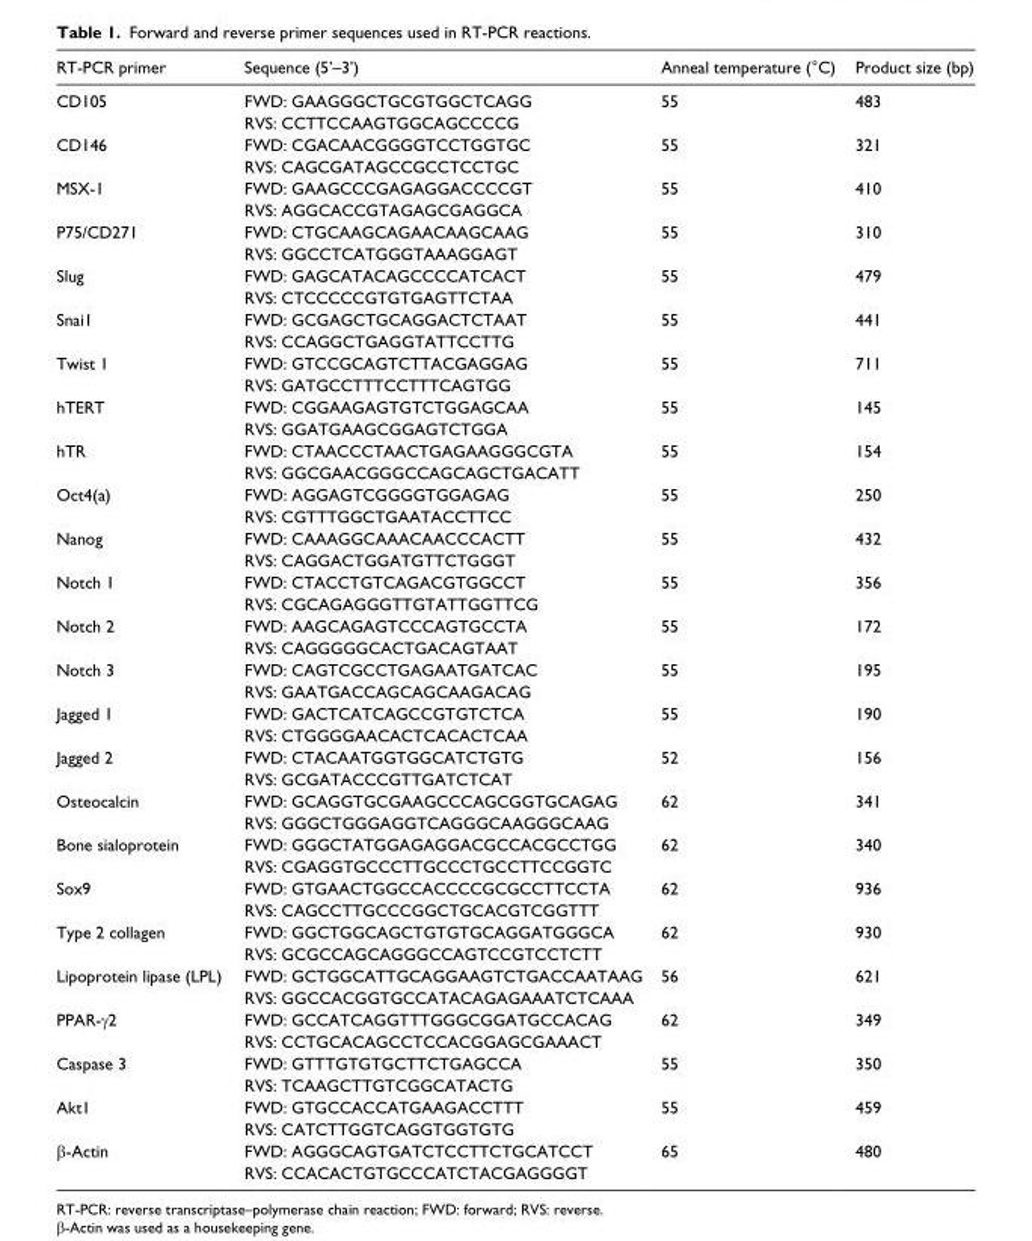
<table><thead><tr><td>RT-PCR primer</td><td>Sequence (5’–3’)</td><td>Anneal temperature (°C)</td><td>Product size (bp)</td></tr></thead><tbody><tr><td rowspan="2">CD105</td><td>FWD: GAAGGGCTGCGTGGCTCAGG</td><td>55</td><td>483</td></tr><tr><td>RVS: CCTTCCAAGTGGCAGCCCCG</td><td></td><td></td></tr><tr><td rowspan="2">CD146</td><td>FWD: CGACAACGGGGTCCTGGTGC</td><td>55</td><td>321</td></tr><tr><td>RVS: CAGCGATAGCCGCCTCCTGC</td><td></td><td></td></tr><tr><td rowspan="2">MSX-1</td><td>FWD: GAAGCCCGAGAGGACCCCGT</td><td>55</td><td>410</td></tr><tr><td>RVS: AGGCACCGTAGAGCGAGGCA</td><td></td><td></td></tr><tr><td rowspan="2">P75/CD271</td><td>FWD: CTGCAAGCAGAACAAGCAAG</td><td>55</td><td>310</td></tr><tr><td>RVS: GGCCTCATGGGTAAAGGAGT</td><td></td><td></td></tr><tr><td rowspan="2">Slug</td><td>FWD: GAGCATACAGCCCCATCACT</td><td>55</td><td>479</td></tr><tr><td>RVS: CTCCCCCGTGTGAGTTCTAA</td><td></td><td></td></tr><tr><td rowspan="2">Snai1</td><td>FWD: GCGAGCTGCAGGACTCTAAT</td><td>55</td><td>441</td></tr><tr><td>RVS: CCAGGCTGAGGTATTCCTTG</td><td></td><td></td></tr><tr><td rowspan="2">Twist 1</td><td>FWD: GTCCGCAGTCTTACGAGGAG</td><td>55</td><td>711</td></tr><tr><td>RVS: GATGCCTTTCCTTTCAGTGG</td><td></td><td></td></tr><tr><td rowspan="2">hTERT</td><td>FWD: CGGAAGAGTGTCTGGAGCAA</td><td>55</td><td>145</td></tr><tr><td>RVS: GGATGAAGCGGAGTCTGGA</td><td></td><td></td></tr><tr><td rowspan="2">hTR</td><td>FWD: CTAACCCTAACTGAGAAGGGCGTA</td><td>55</td><td>154</td></tr><tr><td>RVS: GGCGAACGGGCCAGCAGCTGACATT</td><td></td><td></td></tr><tr><td rowspan="2">Oct4(a)</td><td>FWD: AGGAGTCGGGGTGGAGAG</td><td>55</td><td>250</td></tr><tr><td>RVS: CGTTTGGCTGAATACCTTCC</td><td></td><td></td></tr><tr><td rowspan="2">Nanog</td><td>FWD: CAAAGGCAAACAACCCACTT</td><td>55</td><td>432</td></tr><tr><td>RVS: CAGGACTGGATGTTCTGGGT</td><td></td><td></td></tr><tr><td rowspan="2">Notch 1</td><td>FWD: CTACCTGTCAGACGTGGCCT</td><td>55</td><td>356</td></tr><tr><td>RVS: CGCAGAGGGTTGTATTGGTTCG</td><td></td><td></td></tr><tr><td rowspan="2">Notch 2</td><td>FWD: AAGCAGAGTCCCAGTGCCTA</td><td>55</td><td>172</td></tr><tr><td>RVS: CAGGGGGCACTGACAGTAAT</td><td></td><td></td></tr><tr><td rowspan="2">Notch 3</td><td>FWD: CAGTCGCCTGAGAATGATCAC</td><td>55</td><td>195</td></tr><tr><td>RVS: GAATGACCAGCAGCAAGACAG</td><td></td><td></td></tr><tr><td rowspan="2">Jagged 1</td><td>FWD: GACTCATCAGCCGTGTCTCA</td><td>55</td><td>190</td></tr><tr><td>RVS: CTGGGGAACACTCACACTCAA</td><td></td><td></td></tr><tr><td rowspan="2">Jagged 2</td><td>FWD: CTACAATGGTGGCATCTGTG</td><td>52</td><td>156</td></tr><tr><td>RVS: GCGATACCCGTTGATCTCAT</td><td></td><td></td></tr><tr><td rowspan="2">Osteocalcin</td><td>FWD: GCAGGTGCGAAGCCCAGCGGTGCAGAG</td><td>62</td><td>341</td></tr><tr><td>RVS: GGGCTGGGAGGTCAGGGCAAGGGCAAG</td><td></td><td></td></tr><tr><td rowspan="2">Bone sialoprotein</td><td>FWD: GGGCTATGGAGAGGACGCCACGCCTGG</td><td>62</td><td>340</td></tr><tr><td>RVS: CGAGGTGCCCTTGCCCTGCCTTCCGGTC</td><td></td><td></td></tr><tr><td rowspan="2">Sox9</td><td>FWD: GTGAACTGGCCACCCCGCGCCTTCCTA</td><td>62</td><td>936</td></tr><tr><td>RVS: CAGCCTTGCCCGGCTGCACGTCGGTTT</td><td></td><td></td></tr><tr><td rowspan="2">Type 2 collagen</td><td>FWD: GGCTGGCAGCTGTGTGCAGGATGGGCA</td><td>62</td><td>930</td></tr><tr><td>RVS: GCGCCAGCAGGGCCAGTCCGTCCTCTT</td><td></td><td></td></tr><tr><td rowspan="2">Lipoprotein lipase (LPL)</td><td>FWD: GCTGGCATTGCAGGAAGTCTGACCAATAAG</td><td>56</td><td>621</td></tr><tr><td>RVS: GGCCACGGTGCCATACAGAGAAATCTCAAA</td><td></td><td></td></tr><tr><td rowspan="2">PPAR-γ2</td><td>FWD: GCCATCAGGTTTGGGCGGATGCCACAG</td><td>62</td><td>349</td></tr><tr><td>RVS: CCTGCACAGCCTCCACGGAGCGAAACT</td><td></td><td></td></tr><tr><td rowspan="2">Caspase 3</td><td>FWD: GTTTGTGTGCTTCTGAGCCA</td><td>55</td><td>350</td></tr><tr><td>RVS: TCAAGCTTGTCGGCATACTG</td><td></td><td></td></tr><tr><td rowspan="2">Akt1</td><td>FWD: GTGCCACCATGAAGACCTTT</td><td>55</td><td>459</td></tr><tr><td>RVS: CATCTTGGTCAGGTGGTGTG</td><td></td><td></td></tr><tr><td rowspan="2">β-Actin</td><td>FWD: AGGGCAGTGATCTCCTTCTGCATCCT</td><td>65</td><td>480</td></tr><tr><td>RVS: CCACACTGTGCCCATCTACGAGGGGT</td><td></td><td></td></tr></tbody></table>